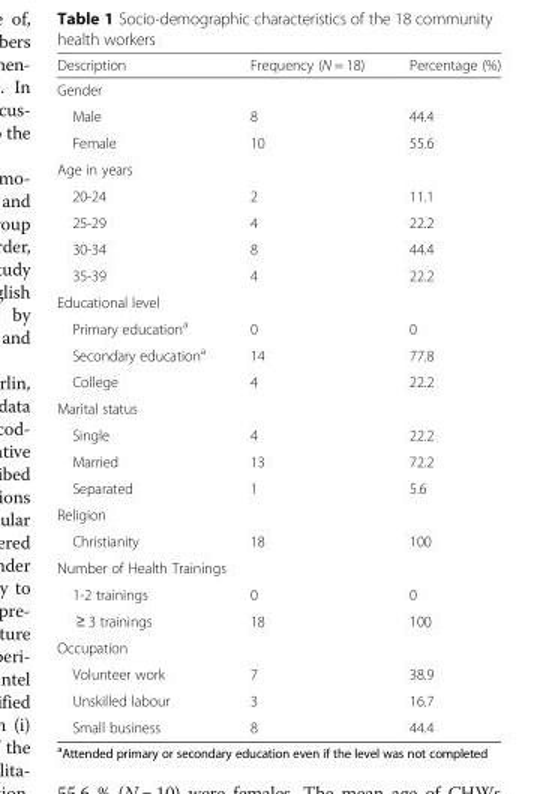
<table><thead><tr><td>Description</td><td>Frequency (N = 18)</td><td>Percentage (%)</td></tr></thead><tbody><tr><td colspan="3">Gender</td></tr><tr><td>Male</td><td>8</td><td>44.4</td></tr><tr><td>Female</td><td>10</td><td>55.6</td></tr><tr><td colspan="3">Age in years</td></tr><tr><td>20-24</td><td>2</td><td>11.1</td></tr><tr><td>25-29</td><td>4</td><td>22.2</td></tr><tr><td>30-34</td><td>8</td><td>44.4</td></tr><tr><td>35-39</td><td>4</td><td>22.2</td></tr><tr><td colspan="3">Educational level</td></tr><tr><td>Primary education<sup>a</sup></td><td>0</td><td>0</td></tr><tr><td>Secondary education<sup>a</sup></td><td>14</td><td>77.8</td></tr><tr><td>College</td><td>4</td><td>22.2</td></tr><tr><td colspan="3">Marital status</td></tr><tr><td>Single</td><td>4</td><td>22.2</td></tr><tr><td>Married</td><td>13</td><td>72.2</td></tr><tr><td>Separated</td><td>1</td><td>5.6</td></tr><tr><td colspan="3">Religion</td></tr><tr><td>Christianity</td><td>18</td><td>100</td></tr><tr><td colspan="3">Number of Health Trainings</td></tr><tr><td>1-2 trainings</td><td>0</td><td>0</td></tr><tr><td>≥ 3 trainings</td><td>18</td><td>100</td></tr><tr><td colspan="3">Occupation</td></tr><tr><td>Volunteer work</td><td>7</td><td>38.9</td></tr><tr><td>Unskilled labour</td><td>3</td><td>16.7</td></tr><tr><td>Small business</td><td>8</td><td>44.4</td></tr></tbody></table>